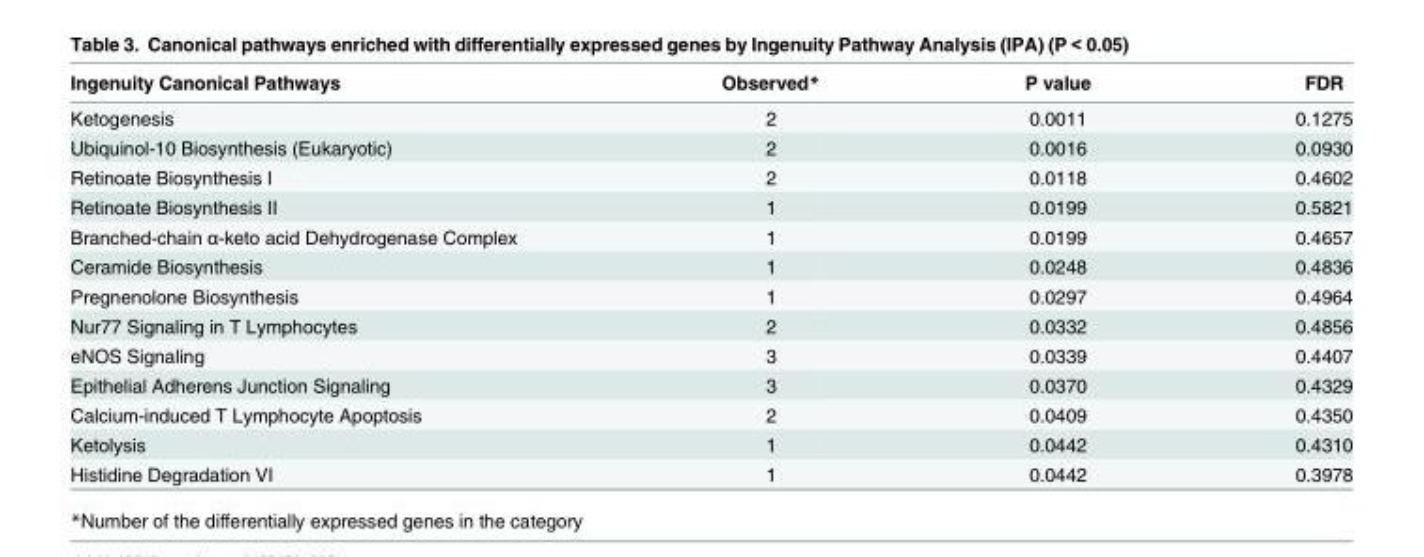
<table><thead><tr><td>Ingenuity Canonical Pathways</td><td>Observed*</td><td>P value</td><td>FDR</td></tr></thead><tbody><tr><td>Ketogenesis</td><td>2</td><td>0.0011</td><td>0.1275</td></tr><tr><td>Ubiquinol-10 Biosynthesis (Eukaryotic)</td><td>2</td><td>0.0016</td><td>0.0930</td></tr><tr><td>Retinoate Biosynthesis I</td><td>2</td><td>0.0118</td><td>0.4602</td></tr><tr><td>Retinoate Biosynthesis II</td><td>1</td><td>0.0199</td><td>0.5821</td></tr><tr><td>Branched-chain α-keto acid Dehydrogenase Complex</td><td>1</td><td>0.0199</td><td>0.4657</td></tr><tr><td>Ceramide Biosynthesis</td><td>1</td><td>0.0248</td><td>0.4836</td></tr><tr><td>Pregnenolone Biosynthesis</td><td>1</td><td>0.0297</td><td>0.4964</td></tr><tr><td>Nur77 Signaling in T Lymphocytes</td><td>2</td><td>0.0332</td><td>0.4856</td></tr><tr><td>eNOS Signaling</td><td>3</td><td>0.0339</td><td>0.4407</td></tr><tr><td>Epithelial Adherens Junction Signaling</td><td>3</td><td>0.0370</td><td>0.4329</td></tr><tr><td>Calcium-induced T Lymphocyte Apoptosis</td><td>2</td><td>0.0409</td><td>0.4350</td></tr><tr><td>Ketolysis</td><td>1</td><td>0.0442</td><td>0.4310</td></tr><tr><td>Histidine Degradation VI</td><td>1</td><td>0.0442</td><td>0.3978</td></tr></tbody></table>